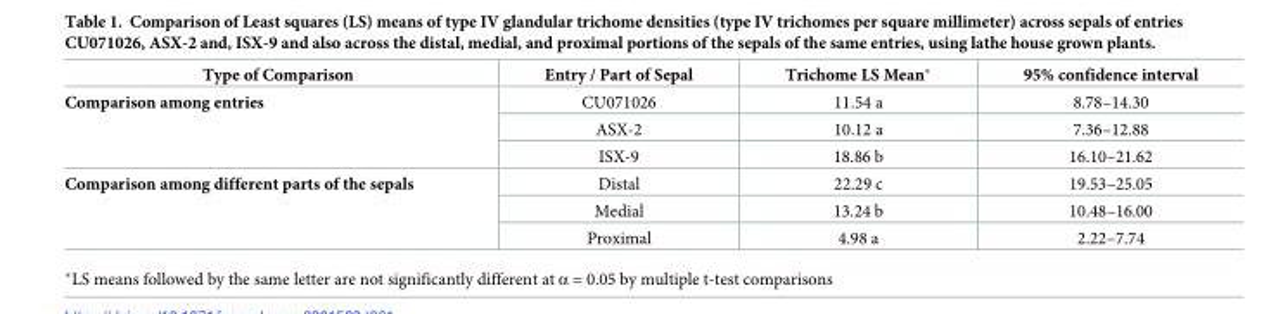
<table><thead><tr><td>Type of Comparison</td><td>Entry / Part of Sepal</td><td>Trichome LS Mean*</td><td>95% confidence interval</td></tr></thead><tbody><tr><td rowspan="3">Comparison among entries</td><td>CU071026</td><td>11.54 a</td><td>8.78–14.30</td></tr><tr><td>ASX-2</td><td>10.12 a</td><td>7.36–12.88</td></tr><tr><td>ISX-9</td><td>18.86 b</td><td>16.10–21.62</td></tr><tr><td rowspan="3">Comparison among different parts of the sepals</td><td>Distal</td><td>22.29 c</td><td>19.53–25.05</td></tr><tr><td>Medial</td><td>13.24 b</td><td>10.48–16.00</td></tr><tr><td>Proximal</td><td>4.98 a</td><td>2.22–7.74</td></tr></tbody></table>